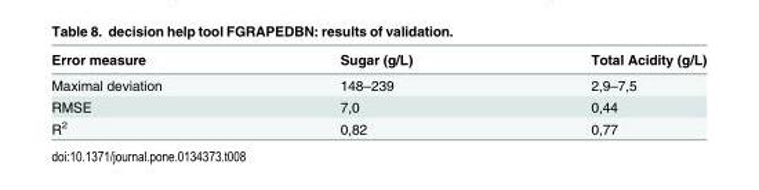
<table><thead><tr><td>Error measure</td><td>Sugar (g/L)</td><td>Total Acidity (g/L)</td></tr></thead><tbody><tr><td>Maximal deviation</td><td>148–239</td><td>2,9–7,5</td></tr><tr><td>RMSE</td><td>7,0</td><td>0,44</td></tr><tr><td>R<sup>2</sup></td><td>0,82</td><td>0,77</td></tr></tbody></table>